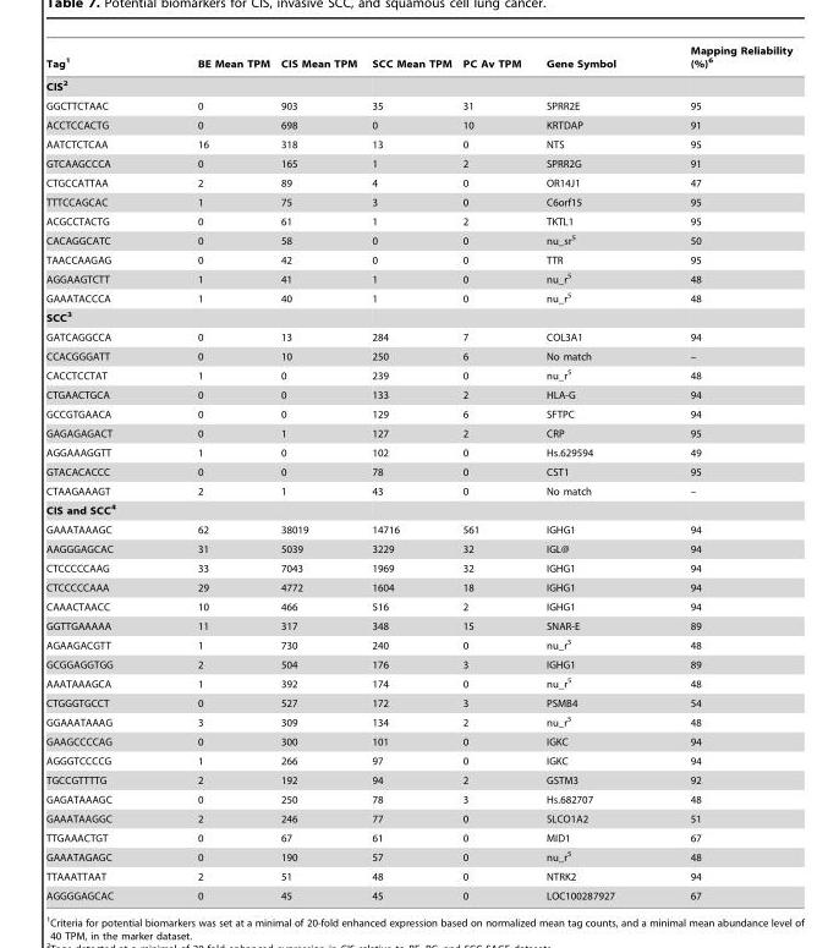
<table><thead><tr><td>Tag<sup>1</sup></td><td>BE Mean TPM</td><td>CIS Mean TPM</td><td>SCC Mean TPM</td><td>PC Av TPM</td><td>Gene Symbol</td><td>Mapping Reliability (%)<sup>6</sup></td></tr></thead><tbody><tr><td colspan="7">CIS2</td></tr><tr><td>GGCTTCTAAC</td><td>0</td><td>903</td><td>35</td><td>31</td><td>SPRR2E</td><td>95</td></tr><tr><td>ACCTCCACTG</td><td>0</td><td>698</td><td>0</td><td>10</td><td>KRTDAP</td><td>91</td></tr><tr><td>AATCTCTCAA</td><td>16</td><td>318</td><td>13</td><td>0</td><td>NTS</td><td>95</td></tr><tr><td>GTCAAGCCCA</td><td>0</td><td>165</td><td>1</td><td>2</td><td>SPRR2G</td><td>91</td></tr><tr><td>CTGCCATTAA</td><td>2</td><td>89</td><td>4</td><td>0</td><td>OR14J1</td><td>47</td></tr><tr><td>TTTCCAGCAC</td><td>1</td><td>75</td><td>3</td><td>0</td><td>C6orf15</td><td>95</td></tr><tr><td>ACGCCTACTG</td><td>0</td><td>61</td><td>1</td><td>2</td><td>TKTL1</td><td>95</td></tr><tr><td>CACAGGCATC</td><td>0</td><td>58</td><td>0</td><td>0</td><td>nu_sr<sup>5</sup></td><td>50</td></tr><tr><td>TAACCAAGAG</td><td>0</td><td>42</td><td>0</td><td>0</td><td>TTR</td><td>95</td></tr><tr><td>AGGAAGTCTT</td><td>1</td><td>41</td><td>1</td><td>0</td><td>nu_r<sup>5</sup></td><td>48</td></tr><tr><td>GAAATACCCA</td><td>1</td><td>40</td><td>1</td><td>0</td><td>nu_r<sup>5</sup></td><td>48</td></tr><tr><td colspan="7">SCC3</td></tr><tr><td>GATCAGGCCA</td><td>0</td><td>13</td><td>284</td><td>7</td><td>COL3A1</td><td>94</td></tr><tr><td>CCACGGGATT</td><td>0</td><td>10</td><td>250</td><td>6</td><td>No match</td><td>–</td></tr><tr><td>CACCTCCTAT</td><td>1</td><td>0</td><td>239</td><td>0</td><td>nu_r<sup>5</sup></td><td>48</td></tr><tr><td>CTGAACTGCA</td><td>0</td><td>0</td><td>133</td><td>2</td><td>HLA-G</td><td>94</td></tr><tr><td>GCCGTGAACA</td><td>0</td><td>0</td><td>129</td><td>6</td><td>SFTPC</td><td>94</td></tr><tr><td>GAGAGAGACT</td><td>0</td><td>1</td><td>127</td><td>2</td><td>CRP</td><td>95</td></tr><tr><td>AGGAAAGGTT</td><td>1</td><td>0</td><td>102</td><td>0</td><td>Hs.629594</td><td>49</td></tr><tr><td>GTACACACCC</td><td>0</td><td>0</td><td>78</td><td>0</td><td>CST1</td><td>95</td></tr><tr><td>CTAAGAAAGT</td><td>2</td><td>1</td><td>43</td><td>0</td><td>No match</td><td>–</td></tr><tr><td colspan="7">CIS and SCC4</td></tr><tr><td>GAAATAAAGC</td><td>62</td><td>38019</td><td>14716</td><td>561</td><td>IGHG1</td><td>94</td></tr><tr><td>AAGGGAGCAC</td><td>31</td><td>5039</td><td>3229</td><td>32</td><td>IGL@</td><td>94</td></tr><tr><td>CTCCCCCAAG</td><td>33</td><td>7043</td><td>1969</td><td>32</td><td>IGHG1</td><td>94</td></tr><tr><td>CTCCCCCAAA</td><td>29</td><td>4772</td><td>1604</td><td>18</td><td>IGHG1</td><td>94</td></tr><tr><td>CAAACTAACC</td><td>10</td><td>466</td><td>516</td><td>2</td><td>IGHG1</td><td>94</td></tr><tr><td>GGTTGAAAAA</td><td>11</td><td>317</td><td>348</td><td>15</td><td>SNAR-E</td><td>89</td></tr><tr><td>AGAAGACGTT</td><td>1</td><td>730</td><td>240</td><td>0</td><td>nu_r<sup>5</sup></td><td>48</td></tr><tr><td>GCGGAGGTGG</td><td>2</td><td>504</td><td>176</td><td>3</td><td>IGHG1</td><td>89</td></tr><tr><td>AAATAAAGCA</td><td>1</td><td>392</td><td>174</td><td>0</td><td>nu_r<sup>5</sup></td><td>48</td></tr><tr><td>CTGGGTGCCT</td><td>0</td><td>527</td><td>172</td><td>3</td><td>PSMB4</td><td>54</td></tr><tr><td>GGAAATAAAG</td><td>3</td><td>309</td><td>134</td><td>2</td><td>nu_r<sup>5</sup></td><td>48</td></tr><tr><td>GAAGCCCCAG</td><td>0</td><td>300</td><td>101</td><td>0</td><td>IGKC</td><td>94</td></tr><tr><td>AGGGTCCCCG</td><td>1</td><td>266</td><td>97</td><td>0</td><td>IGKC</td><td>94</td></tr><tr><td>TGCCGTTTTG</td><td>2</td><td>192</td><td>94</td><td>2</td><td>GSTM3</td><td>92</td></tr><tr><td>GAGATAAAGC</td><td>0</td><td>250</td><td>78</td><td>3</td><td>Hs.682707</td><td>48</td></tr><tr><td>GAAATAAGGC</td><td>2</td><td>246</td><td>77</td><td>0</td><td>SLCO1A2</td><td>51</td></tr><tr><td>TTGAAACTGT</td><td>0</td><td>67</td><td>61</td><td>0</td><td>MID1</td><td>67</td></tr><tr><td>GAAATAGAGC</td><td>0</td><td>190</td><td>57</td><td>0</td><td>nu_r<sup>5</sup></td><td>48</td></tr><tr><td>TTAAATTAAT</td><td>2</td><td>51</td><td>48</td><td>0</td><td>NTRK2</td><td>94</td></tr><tr><td>AGGGGAGCAC</td><td>0</td><td>45</td><td>45</td><td>0</td><td>LOC100287927</td><td>67</td></tr></tbody></table>